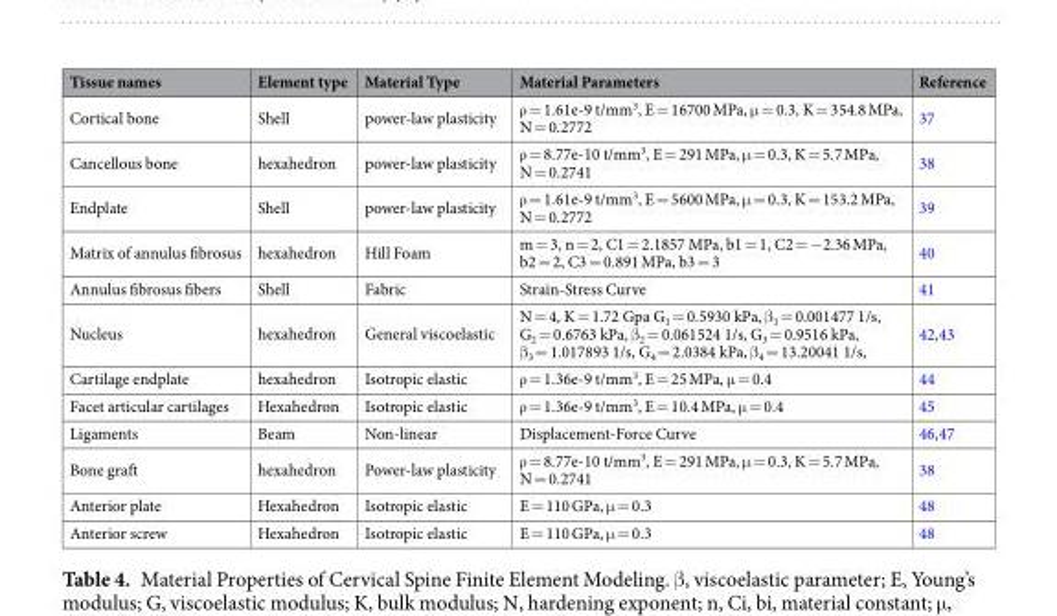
<table><thead><tr><td>Tissue names</td><td>Element type</td><td>Material Type</td><td>Material Parameters</td><td>Reference</td></tr></thead><tbody><tr><td>Cortical bone</td><td>Shell</td><td>power-law plasticity</td><td>ρ = 1.61e-9 t/mm<sup>3</sup>, E = 16700 MPa, μ = 0.3, K = 354.8 MPa, N = 0.2772</td><td>37</td></tr><tr><td>Cancellous bone</td><td>hexahedron</td><td>power-law plasticity</td><td>ρ = 8.77e-10 t/mm<sup>3</sup>, E = 291 MPa, μ = 0.3, K = 5.7 MPa, N = 0.2741</td><td>38</td></tr><tr><td>Endplate</td><td>Shell</td><td>power-law plasticity</td><td>ρ = 1.61e-9 t/mm<sup>3</sup>, E = 5600 MPa, μ = 0.3, K = 153.2 MPa, N = 0.2772</td><td>39</td></tr><tr><td>Matrix of annulus fibrosus</td><td>hexahedron</td><td>Hill Foam</td><td>m = 3, n = 2, C1 = 2.1857 MPa, b1 = 1, C2 = −2.36 MPa, b2 = 2, C3 = 0.891 MPa, b3 = 3</td><td>40</td></tr><tr><td>Annulus fibrosus fibers</td><td>Shell</td><td>Fabric</td><td>Strain-Stress Curve</td><td>41</td></tr><tr><td>Nucleus</td><td>hexahedron</td><td>General viscoelastic</td><td>N = 4, K = 1.72 Gpa G<sub>1</sub> = 0.5930 kPa, β<sub>1</sub> = 0.001477 1/s, G<sub>2</sub> = 0.6763 kPa, β<sub>2</sub> = 0.061524 1/s, G<sub>3</sub> = 0.9516 kPa, β<sub>3</sub> = 1.017893 1/s, G<sub>4</sub> = 2.0384 kPa, β<sub>4</sub> = 13.20041 1/s,</td><td>42,43</td></tr><tr><td>Cartilage endplate</td><td>hexahedron</td><td>Isotropic elastic</td><td>ρ = 1.36e-9 t/mm<sup>3</sup>, E = 25 MPa, μ = 0.4</td><td>44</td></tr><tr><td>Facet articular cartilages</td><td>Hexahedron</td><td>Isotropic elastic</td><td>ρ = 1.36e-9 t/mm<sup>3</sup>, E = 10.4 MPa, μ = 0.4</td><td>45</td></tr><tr><td>Ligaments</td><td>Beam</td><td>Non-linear</td><td>Displacement-Force Curve</td><td>46,47</td></tr><tr><td>Bone graft</td><td>hexahedron</td><td>Power-law plasticity</td><td>ρ = 8.77e-10 t/mm<sup>3</sup>, E = 291 MPa, μ = 0.3, K = 5.7 MPa, N = 0.2741</td><td>38</td></tr><tr><td>Anterior plate</td><td>Hexahedron</td><td>Isotropic elastic</td><td>E = 110 GPa, μ = 0.3</td><td>48</td></tr><tr><td>Anterior screw</td><td>Hexahedron</td><td>Isotropic elastic</td><td>E = 110 GPa, μ = 0.3</td><td>48</td></tr></tbody></table>